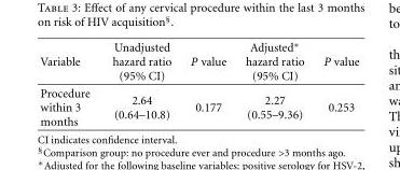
<table><thead><tr><td>Variable</td><td>Unadjusted hazard ratio (95% CI)</td><td>P value</td><td>Adjusted∗ hazard ratio (95% CI)</td><td>P value</td></tr></thead><tbody><tr><td>Procedure within 3 months</td><td>2.64 (0.64–10.8)</td><td>0.177</td><td>2.27 (0.55–9.36)</td><td>0.253</td></tr></tbody></table>